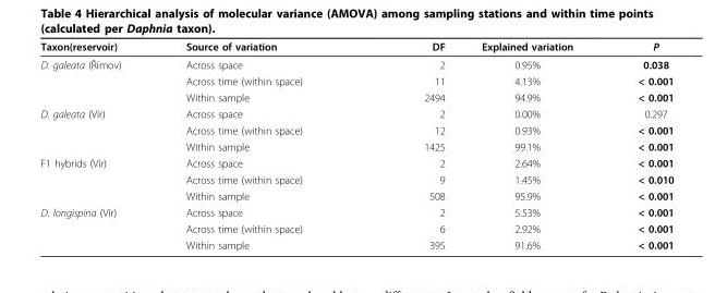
<table><thead><tr><td>Taxon(reservoir)</td><td>Source of variation</td><td>DF</td><td>Explained variation</td><td>P</td></tr></thead><tbody><tr><td rowspan="3">D. galeata (Římov)</td><td>Across space</td><td>2</td><td>0.95%</td><td>0.038</td></tr><tr><td>Across time (within space)</td><td>11</td><td>4.13%</td><td>&lt; 0.001</td></tr><tr><td>Within sample</td><td>2494</td><td>94.9%</td><td>&lt; 0.001</td></tr><tr><td rowspan="3">D. galeata (Vír)</td><td>Across space</td><td>2</td><td>0.00%</td><td>0.297</td></tr><tr><td>Across time (within space)</td><td>12</td><td>0.93%</td><td>&lt; 0.001</td></tr><tr><td>Within sample</td><td>1425</td><td>99.1%</td><td>&lt; 0.001</td></tr><tr><td rowspan="3">F1 hybrids (Vír)</td><td>Across space</td><td>2</td><td>2.64%</td><td>&lt; 0.001</td></tr><tr><td>Across time (within space)</td><td>9</td><td>1.45%</td><td>&lt; 0.010</td></tr><tr><td>Within sample</td><td>508</td><td>95.9%</td><td>&lt; 0.001</td></tr><tr><td rowspan="3">D. longispina (Vír)</td><td>Across space</td><td>2</td><td>5.53%</td><td>&lt; 0.001</td></tr><tr><td>Across time (within space)</td><td>6</td><td>2.92%</td><td>&lt; 0.001</td></tr><tr><td>Within sample</td><td>395</td><td>91.6%</td><td>&lt; 0.001</td></tr></tbody></table>